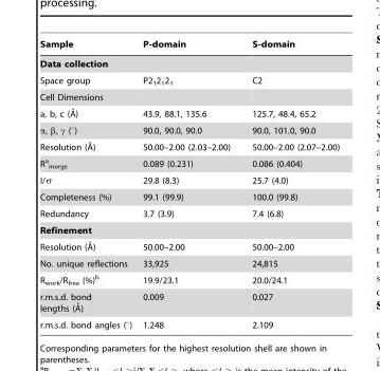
<table><thead><tr><td>Sample</td><td>P-domain</td><td>S-domain</td></tr></thead><tbody><tr><td colspan="3">Data collection</td></tr><tr><td>Space group</td><td>P2<sub>1</sub>2<sub>1</sub>2<sub>1</sub></td><td>C2</td></tr><tr><td colspan="3">Cell Dimensions</td></tr><tr><td>a, b, c (A˚)</td><td>43.9, 88.1, 135.6</td><td>125.7, 48.4, 65.2</td></tr><tr><td>α, β, γ (°)</td><td>90.0, 90.0, 90.0</td><td>90.0, 101.0, 90.0</td></tr><tr><td>Resolution (A˚)</td><td>50.00–2.00 (2.03–2.00)</td><td>50.00–2.00 (2.07–2.00)</td></tr><tr><td>R<sup>a</sup> <sub>merge</sub></td><td>0.089 (0.231)</td><td>0.086 (0.404)</td></tr><tr><td>I/σ</td><td>29.8 (8.3)</td><td>25.7 (4.0)</td></tr><tr><td>Completeness (%)</td><td>99.1 (99.9)</td><td>100.0 (99.8)</td></tr><tr><td>Redundancy</td><td>3.7 (3.9)</td><td>7.4 (6.8)</td></tr><tr><td colspan="3">Refinement</td></tr><tr><td>Resolution (A˚)</td><td>50.00–2.00</td><td>50.00–2.00</td></tr><tr><td>No. unique reflections</td><td>33,925</td><td>24,815</td></tr><tr><td>R<sub>work</sub>/R<sub>free</sub> (%)<sup>b</sup></td><td>19.9/23.1</td><td>20.0/24.1</td></tr><tr><td>r.m.s.d. bond lengths (A˚)</td><td>0.009</td><td>0.027</td></tr><tr><td>r.m.s.d. bond angles (°)</td><td>1.248</td><td>2.109</td></tr></tbody></table>